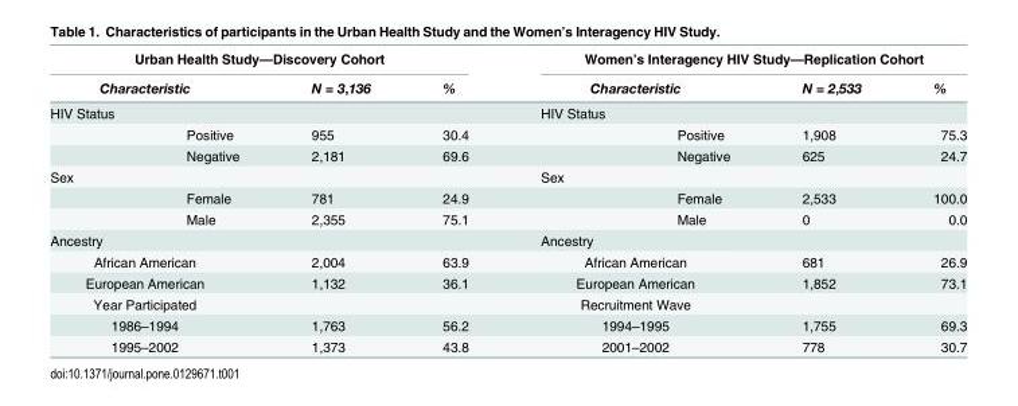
<table><thead><tr><td colspan="4">Urban Health Study—Discovery Cohort</td><td colspan="4">Women’s Interagency HIV Study—Replication Cohort</td></tr><tr><td colspan="2">Characteristic</td><td rowspan="2">N = 3,136</td><td rowspan="2">%</td><td colspan="2">Characteristic</td><td rowspan="2">N = 2,533</td><td rowspan="2">%</td></tr><tr><td>HIV Status</td><td></td><td>HIV Status</td><td></td></tr></thead><tbody><tr><td></td><td>Positive</td><td>955</td><td>30.4</td><td></td><td>Positive</td><td>1,908</td><td>75.3</td></tr><tr><td></td><td>Negative</td><td>2,181</td><td>69.6</td><td></td><td>Negative</td><td>625</td><td>24.7</td></tr><tr><td rowspan="3">Sex</td><td></td><td></td><td></td><td>Sex</td><td></td><td></td><td></td></tr><tr><td>Female</td><td>781</td><td>24.9</td><td></td><td>Female</td><td>2,533</td><td>100.0</td></tr><tr><td>Male</td><td>2,355</td><td>75.1</td><td></td><td>Male</td><td>0</td><td>0.0</td></tr><tr><td>Ancestry</td><td></td><td></td><td></td><td>Ancestry</td><td></td><td></td><td></td></tr><tr><td colspan="2">African American</td><td>2,004</td><td>63.9</td><td colspan="2">African American</td><td>681</td><td>26.9</td></tr><tr><td colspan="2">European American</td><td>1,132</td><td>36.1</td><td colspan="2">European American</td><td>1,852</td><td>73.1</td></tr><tr><td colspan="2">Year Participated</td><td></td><td></td><td colspan="2">Recruitment Wave</td><td></td><td></td></tr><tr><td colspan="2">1986–1994</td><td>1,763</td><td>56.2</td><td colspan="2">1994–1995</td><td>1,755</td><td>69.3</td></tr><tr><td colspan="2">1995–2002</td><td>1,373</td><td>43.8</td><td colspan="2">2001–2002</td><td>778</td><td>30.7</td></tr></tbody></table>